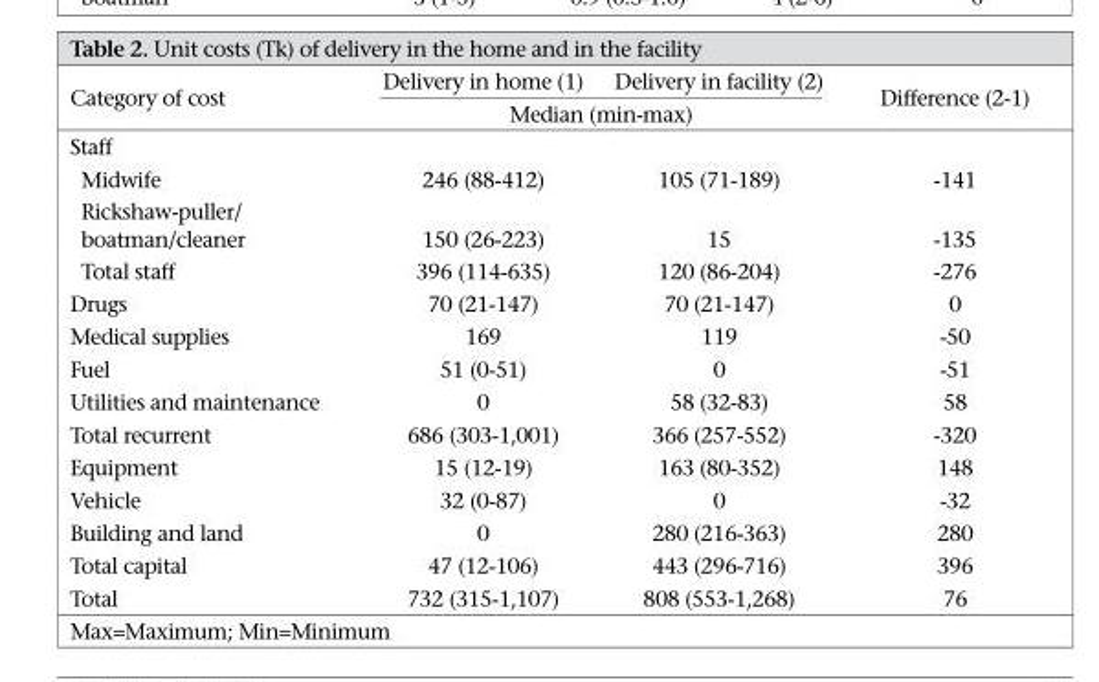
<table><thead><tr><td rowspan="2">Category of cost</td><td>Delivery in home (1)</td><td>Delivery in facility (2)</td><td rowspan="2">Difference (2-1)</td></tr><tr><td colspan="2">Median (min-max)</td></tr></thead><tbody><tr><td colspan="4">Staff</td></tr><tr><td>Midwife</td><td>246 (88-412)</td><td>105 (71-189)</td><td>-141</td></tr><tr><td>Rickshaw-puller/ boatman/cleaner</td><td>150 (26-223)</td><td>15</td><td>-135</td></tr><tr><td>Total staff</td><td>396 (114-635)</td><td>120 (86-204)</td><td>-276</td></tr><tr><td>Drugs</td><td>70 (21-147)</td><td>70 (21-147)</td><td>0</td></tr><tr><td>Medical supplies</td><td>169</td><td>119</td><td>-50</td></tr><tr><td>Fuel</td><td>51 (0-51)</td><td>0</td><td>-51</td></tr><tr><td>Utilities and maintenance</td><td>0</td><td>58 (32-83)</td><td>58</td></tr><tr><td>Total recurrent</td><td>686 (303-1,001)</td><td>366 (257-552)</td><td>-320</td></tr><tr><td>Equipment</td><td>15 (12-19)</td><td>163 (80-352)</td><td>148</td></tr><tr><td>Vehicle</td><td>32 (0-87)</td><td>0</td><td>-32</td></tr><tr><td>Building and land</td><td>0</td><td>280 (216-363)</td><td>280</td></tr><tr><td>Total capital</td><td>47 (12-106)</td><td>443 (296-716)</td><td>396</td></tr><tr><td>Total</td><td>732 (315-1,107)</td><td>808 (553-1,268)</td><td>76</td></tr></tbody></table>